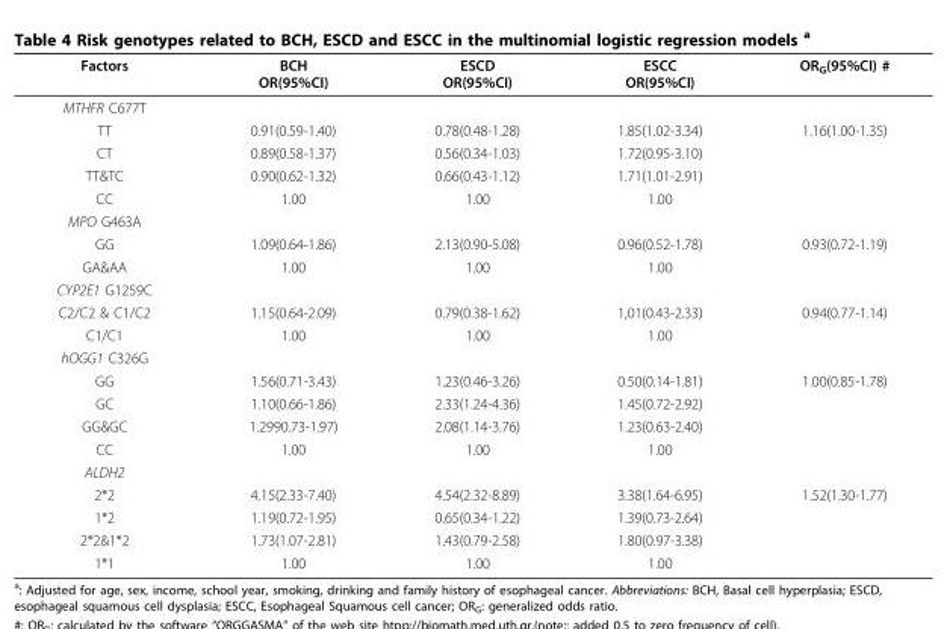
<table><thead><tr><td>Factors</td><td>BCH OR(95%CI)</td><td>ESCD OR(95%CI)</td><td>ESCC OR(95%CI)</td><td>OR<sub>G</sub>(95%CI) #</td></tr></thead><tbody><tr><td colspan="5">MTHFR C677T</td></tr><tr><td>TT</td><td>0.91(0.59-1.40)</td><td>0.78(0.48-1.28)</td><td>1.85(1.02-3.34)</td><td>1.16(1.00-1.35)</td></tr><tr><td>CT</td><td>0.89(0.58-1.37)</td><td>0.56(0.34-1.03)</td><td>1.72(0.95-3.10)</td><td></td></tr><tr><td>TT&amp;TC</td><td>0.90(0.62-1.32)</td><td>0.66(0.43-1.12)</td><td>1.71(1.01-2.91)</td><td></td></tr><tr><td>CC</td><td>1.00</td><td>1.00</td><td>1.00</td><td></td></tr><tr><td colspan="5">MPO G463A</td></tr><tr><td>GG</td><td>1.09(0.64-1.86)</td><td>2.13(0.90-5.08)</td><td>0.96(0.52-1.78)</td><td>0.93(0.72-1.19)</td></tr><tr><td>GA&amp;AA</td><td>1.00</td><td>1.00</td><td>1.00</td><td></td></tr><tr><td colspan="5">CYP2E1 G1259C</td></tr><tr><td>C2/C2 &amp; C1/C2</td><td>1.15(0.64-2.09)</td><td>0.79(0.38-1.62)</td><td>1,01(0.43-2.33)</td><td>0.94(0.77-1.14)</td></tr><tr><td>C1/C1</td><td>1.00</td><td>1.00</td><td>1.00</td><td></td></tr><tr><td colspan="5">hOGG1 C326G</td></tr><tr><td>GG</td><td>1.56(0.71-3.43)</td><td>1.23(0.46-3.26)</td><td>0.50(0.14-1.81)</td><td>1.00(0.85-1.78)</td></tr><tr><td>GC</td><td>1.10(0.66-1.86)</td><td>2.33(1.24-4.36)</td><td>1.45(0.72-2.92)</td><td></td></tr><tr><td>GG&amp;GC</td><td>1.2990.73-1.97)</td><td>2.08(1.14-3.76)</td><td>1.23(0.63-2.40)</td><td></td></tr><tr><td>CC</td><td>1.00</td><td>1.00</td><td>1.00</td><td></td></tr><tr><td colspan="5">ALDH2</td></tr><tr><td>2*2</td><td>4.15(2.33-7.40)</td><td>4.54(2.32-8.89)</td><td>3.38(1.64-6.95)</td><td>1.52(1.30-1.77)</td></tr><tr><td>1*2</td><td>1.19(0.72-1.95)</td><td>0.65(0.34-1.22)</td><td>1.39(0.73-2.64)</td><td></td></tr><tr><td>2*2&amp;1*2</td><td>1.73(1.07-2.81)</td><td>1.43(0.79-2.58)</td><td>1.80(0.97-3.38)</td><td></td></tr><tr><td>1*1</td><td>1.00</td><td>1.00</td><td>1.00</td><td></td></tr></tbody></table>